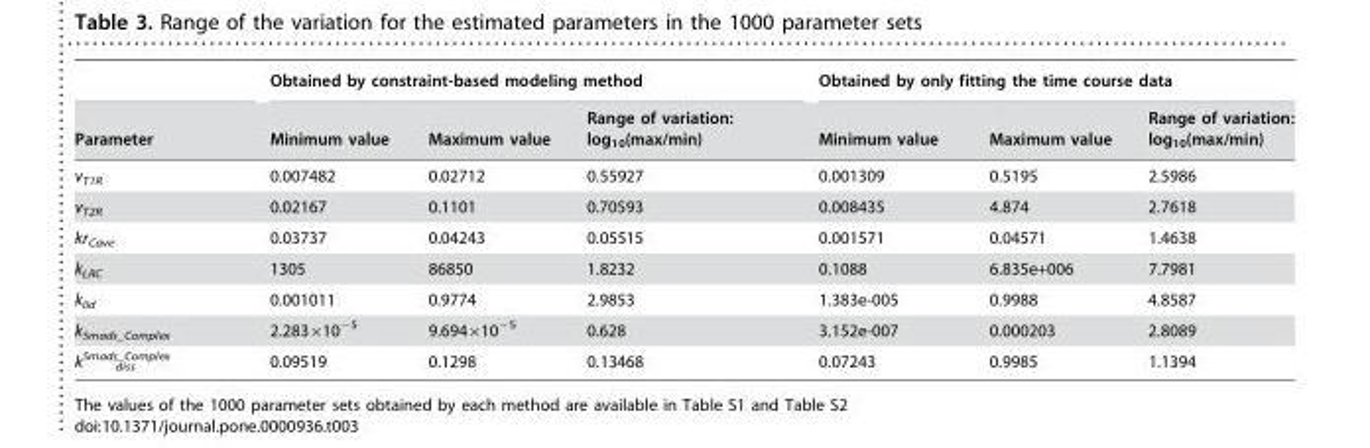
<table><thead><tr><td rowspan="2">Parameter</td><td colspan="3">Obtained by constraint-based modeling method</td><td colspan="3">Obtained by only fitting the time course data</td></tr><tr><td>Minimum value</td><td>Maximum value</td><td>Range of variation: log<sub>10</sub>(max/min)</td><td>Minimum value</td><td>Maximum value</td><td>Range of variation: log<sub>10</sub>(max/min)</td></tr></thead><tbody><tr><td>v<sub>T1R</sub></td><td>0.007482</td><td>0.02712</td><td>0.55927</td><td>0.001309</td><td>0.5195</td><td>2.5986</td></tr><tr><td>v<sub>T2R</sub></td><td>0.02167</td><td>0.1101</td><td>0.70593</td><td>0.008435</td><td>4.874</td><td>2.7618</td></tr><tr><td>kr<sub>Cave</sub></td><td>0.03737</td><td>0.04243</td><td>0.05515</td><td>0.001571</td><td>0.04571</td><td>1.4638</td></tr><tr><td>k<sub>LRC</sub></td><td>1305</td><td>86850</td><td>1.8232</td><td>0.1088</td><td>6.835e+006</td><td>7.7981</td></tr><tr><td>k<sub>lid</sub></td><td>0.001011</td><td>0.9774</td><td>2.9853</td><td>1.383e-005</td><td>0.9988</td><td>4.8587</td></tr><tr><td>k<sub>Smads_Complex</sub></td><td>2.283×10<sup>−5</sup></td><td>9.694×10<sup>−5</sup></td><td>0.628</td><td>3.152e-007</td><td>0.000203</td><td>2.8089</td></tr><tr><td>k<sup>Smads_Complex</sup> <sub>diss</sub></td><td>0.09519</td><td>0.1298</td><td>0.13468</td><td>0.07243</td><td>0.9985</td><td>1.1394</td></tr></tbody></table>